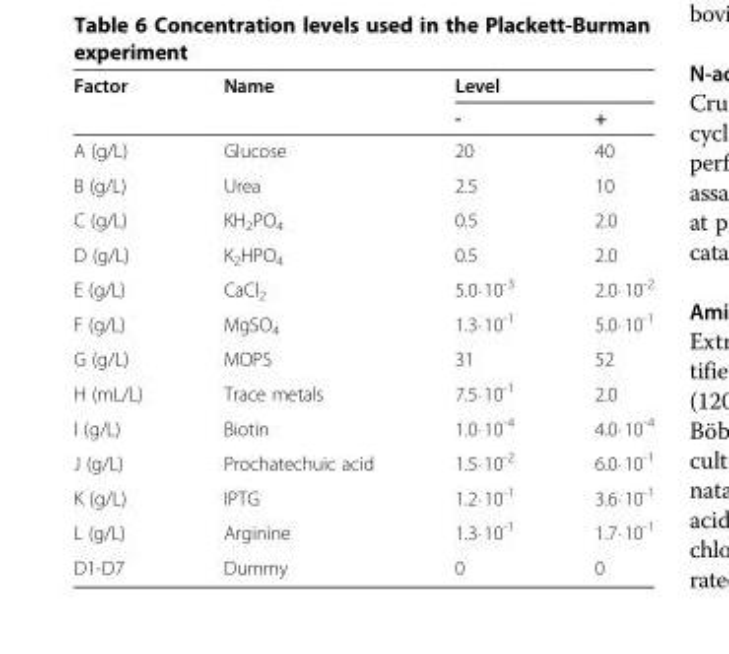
<table><thead><tr><td rowspan="2">Factor</td><td rowspan="2">Name</td><td colspan="2">Level</td></tr><tr><td>-</td><td>+</td></tr></thead><tbody><tr><td>A (g/L)</td><td>Glucose</td><td>20</td><td>40</td></tr><tr><td>B (g/L)</td><td>Urea</td><td>2.5</td><td>10</td></tr><tr><td>C (g/L)</td><td>KH<sub>2</sub>PO<sub>4</sub></td><td>0.5</td><td>2.0</td></tr><tr><td>D (g/L)</td><td>K<sub>2</sub>HPO<sub>4</sub></td><td>0.5</td><td>2.0</td></tr><tr><td>E (g/L)</td><td>CaCl<sub>2</sub></td><td>5.0⋅10-3</td><td>2.0⋅10-2</td></tr><tr><td>F (g/L)</td><td>MgSO<sub>4</sub></td><td>1.3⋅10-1</td><td>5.0⋅10-1</td></tr><tr><td>G (g/L)</td><td>MOPS</td><td>31</td><td>52</td></tr><tr><td>H (mL/L)</td><td>Trace metals</td><td>7.5⋅10-1</td><td>2.0</td></tr><tr><td>I (g/L)</td><td>Biotin</td><td>1.0⋅10-4</td><td>4.0⋅10-4</td></tr><tr><td>J (g/L)</td><td>Prochatechuic acid</td><td>1.5⋅10-2</td><td>6.0⋅10-1</td></tr><tr><td>K (g/L)</td><td>IPTG</td><td>1.2⋅10-1</td><td>3.6⋅10-1</td></tr><tr><td>L (g/L)</td><td>Arginine</td><td>1.3⋅10-1</td><td>1.7⋅10-1</td></tr><tr><td>D1-D7</td><td>Dummy</td><td>0</td><td>0</td></tr></tbody></table>